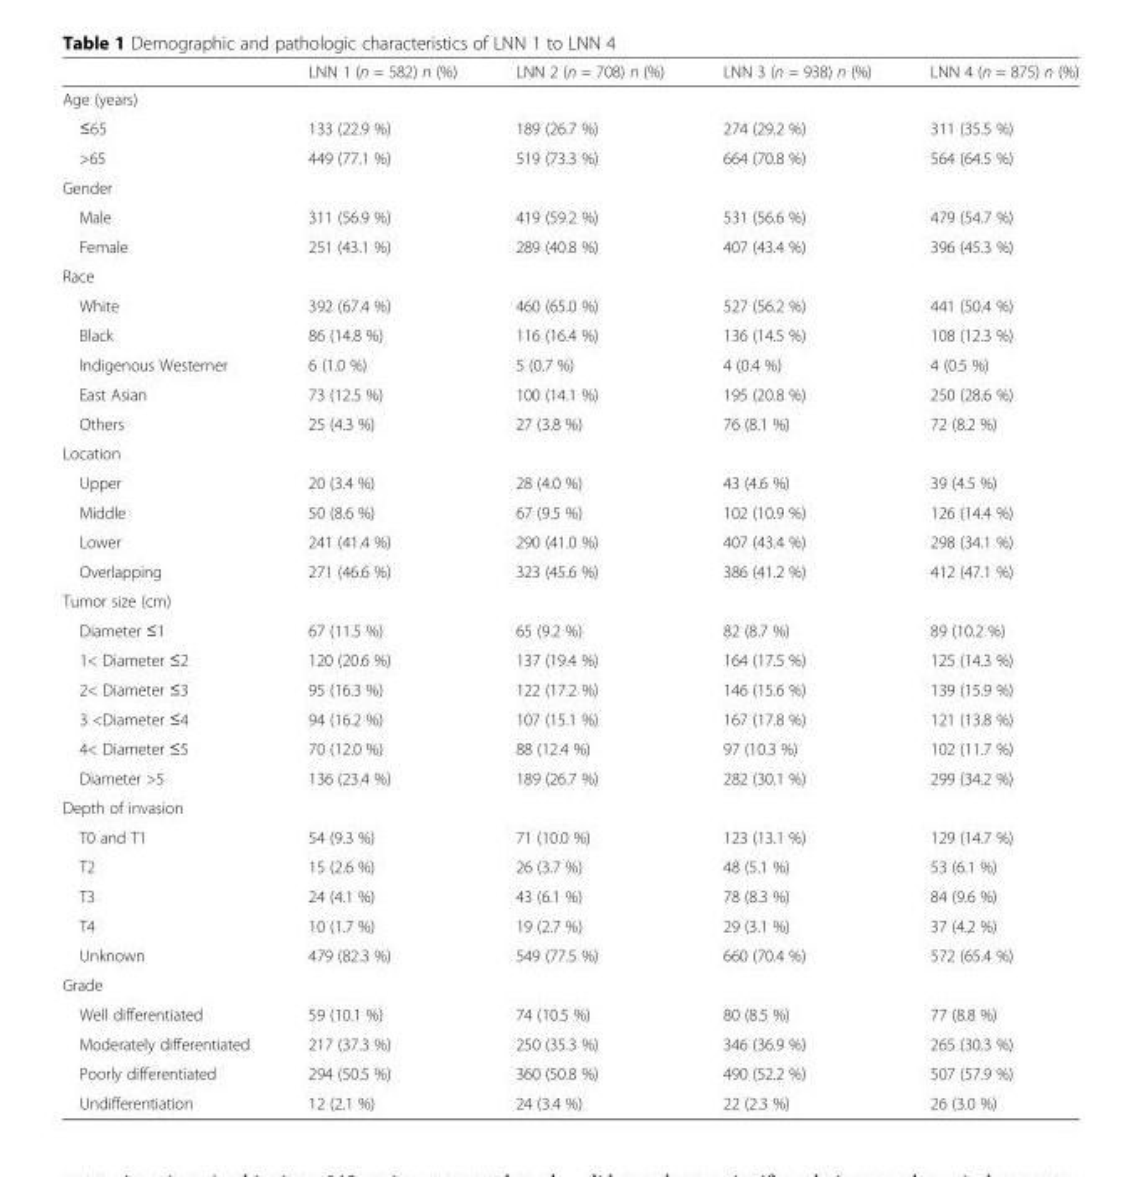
<table><thead><tr><td></td><td>LNN 1 (n = 582) n (%)</td><td>LNN 2 (n = 708) n (%)</td><td>LNN 3 (n = 938) n (%)</td><td>LNN 4 (n = 875) n (%)</td></tr></thead><tbody><tr><td colspan="5">Age (years)</td></tr><tr><td>≤65</td><td>133 (22.9 %)</td><td>189 (26.7 %)</td><td>274 (29.2 %)</td><td>311 (35.5 %)</td></tr><tr><td>&gt;65</td><td>449 (77.1 %)</td><td>519 (73.3 %)</td><td>664 (70.8 %)</td><td>564 (64.5 %)</td></tr><tr><td colspan="5">Gender</td></tr><tr><td>Male</td><td>311 (56.9 %)</td><td>419 (59.2 %)</td><td>531 (56.6 %)</td><td>479 (54.7 %)</td></tr><tr><td>Female</td><td>251 (43.1 %)</td><td>289 (40.8 %)</td><td>407 (43.4 %)</td><td>396 (45.3 %)</td></tr><tr><td colspan="5">Race</td></tr><tr><td>White</td><td>392 (67.4 %)</td><td>460 (65.0 %)</td><td>527 (56.2 %)</td><td>441 (50.4 %)</td></tr><tr><td>Black</td><td>86 (14.8 %)</td><td>116 (16.4 %)</td><td>136 (14.5 %)</td><td>108 (12.3 %)</td></tr><tr><td>Indigenous Westerner</td><td>6 (1.0 %)</td><td>5 (0.7 %)</td><td>4 (0.4 %)</td><td>4 (0.5 %)</td></tr><tr><td>East Asian</td><td>73 (12.5 %)</td><td>100 (14.1 %)</td><td>195 (20.8 %)</td><td>250 (28.6 %)</td></tr><tr><td>Others</td><td>25 (4.3 %)</td><td>27 (3.8 %)</td><td>76 (8.1 %)</td><td>72 (8.2 %)</td></tr><tr><td colspan="5">Location</td></tr><tr><td>Upper</td><td>20 (3.4 %)</td><td>28 (4.0 %)</td><td>43 (4.6 %)</td><td>39 (4.5 %)</td></tr><tr><td>Middle</td><td>50 (8.6 %)</td><td>67 (9.5 %)</td><td>102 (10.9 %)</td><td>126 (14.4 %)</td></tr><tr><td>Lower</td><td>241 (41.4 %)</td><td>290 (41.0 %)</td><td>407 (43.4 %)</td><td>298 (34.1 %)</td></tr><tr><td>Overlapping</td><td>271 (46.6 %)</td><td>323 (45.6 %)</td><td>386 (41.2 %)</td><td>412 (47.1 %)</td></tr><tr><td colspan="5">Tumor size (cm)</td></tr><tr><td>Diameter ≤1</td><td>67 (11.5 %)</td><td>65 (9.2 %)</td><td>82 (8.7 %)</td><td>89 (10.2 %)</td></tr><tr><td>1&lt; Diameter ≤2</td><td>120 (20.6 %)</td><td>137 (19.4 %)</td><td>164 (17.5 %)</td><td>125 (14.3 %)</td></tr><tr><td>2&lt; Diameter ≤3</td><td>95 (16.3 %)</td><td>122 (17.2 %)</td><td>146 (15.6 %)</td><td>139 (15.9 %)</td></tr><tr><td>3 &lt;Diameter ≤4</td><td>94 (16.2 %)</td><td>107 (15.1 %)</td><td>167 (17.8 %)</td><td>121 (13.8 %)</td></tr><tr><td>4&lt; Diameter ≤5</td><td>70 (12.0 %)</td><td>88 (12.4 %)</td><td>97 (10.3 %)</td><td>102 (11.7 %)</td></tr><tr><td>Diameter &gt;5</td><td>136 (23.4 %)</td><td>189 (26.7 %)</td><td>282 (30.1 %)</td><td>299 (34.2 %)</td></tr><tr><td colspan="5">Depth of invasion</td></tr><tr><td>T0 and T1</td><td>54 (9.3 %)</td><td>71 (10.0 %)</td><td>123 (13.1 %)</td><td>129 (14.7 %)</td></tr><tr><td>T2</td><td>15 (2.6 %)</td><td>26 (3.7 %)</td><td>48 (5.1 %)</td><td>53 (6.1 %)</td></tr><tr><td>T3</td><td>24 (4.1 %)</td><td>43 (6.1 %)</td><td>78 (8.3 %)</td><td>84 (9.6 %)</td></tr><tr><td>T4</td><td>10 (1.7 %)</td><td>19 (2.7 %)</td><td>29 (3.1 %)</td><td>37 (4.2 %)</td></tr><tr><td>Unknown</td><td>479 (82.3 %)</td><td>549 (77.5 %)</td><td>660 (70.4 %)</td><td>572 (65.4 %)</td></tr><tr><td colspan="5">Grade</td></tr><tr><td>Well differentiated</td><td>59 (10.1 %)</td><td>74 (10.5 %)</td><td>80 (8.5 %)</td><td>77 (8.8 %)</td></tr><tr><td>Moderately differentiated</td><td>217 (37.3 %)</td><td>250 (35.3 %)</td><td>346 (36.9 %)</td><td>265 (30.3 %)</td></tr><tr><td>Poorly differentiated</td><td>294 (50.5 %)</td><td>360 (50.8 %)</td><td>490 (52.2 %)</td><td>507 (57.9 %)</td></tr><tr><td>Undifferentiation</td><td>12 (2.1 %)</td><td>24 (3.4 %)</td><td>22 (2.3 %)</td><td>26 (3.0 %)</td></tr></tbody></table>